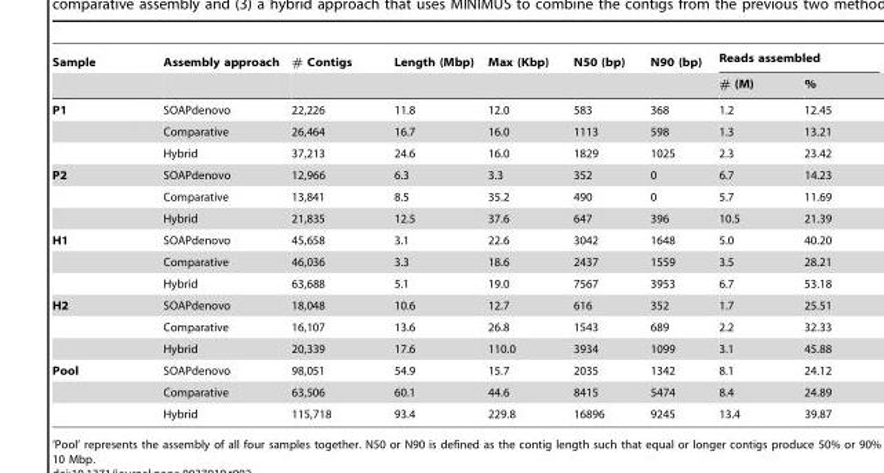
<table><thead><tr><td rowspan="2">Sample</td><td rowspan="2">Assembly approach</td><td rowspan="2"># Contigs</td><td rowspan="2">Length (Mbp)</td><td rowspan="2">Max (Kbp)</td><td rowspan="2">N50 (bp)</td><td rowspan="2">N90 (bp)</td><td colspan="2">Reads assembled</td></tr><tr><td># (M)</td><td>%</td></tr></thead><tbody><tr><td rowspan="3">P1</td><td>SOAPdenovo</td><td>22,226</td><td>11.8</td><td>12.0</td><td>583</td><td>368</td><td>1.2</td><td>12.45</td></tr><tr><td>Comparative</td><td>26,464</td><td>16.7</td><td>16.0</td><td>1113</td><td>598</td><td>1.3</td><td>13.21</td></tr><tr><td>Hybrid</td><td>37,213</td><td>24.6</td><td>16.0</td><td>1829</td><td>1025</td><td>2.3</td><td>23.42</td></tr><tr><td rowspan="3">P2</td><td>SOAPdenovo</td><td>12,966</td><td>6.3</td><td>3.3</td><td>352</td><td>0</td><td>6.7</td><td>14.23</td></tr><tr><td>Comparative</td><td>13,841</td><td>8.5</td><td>35.2</td><td>490</td><td>0</td><td>5.7</td><td>11.69</td></tr><tr><td>Hybrid</td><td>21,835</td><td>12.5</td><td>37.6</td><td>647</td><td>396</td><td>10.5</td><td>21.39</td></tr><tr><td rowspan="3">H1</td><td>SOAPdenovo</td><td>45,658</td><td>3.1</td><td>22.6</td><td>3042</td><td>1648</td><td>5.0</td><td>40.20</td></tr><tr><td>Comparative</td><td>46,036</td><td>3.3</td><td>18.6</td><td>2437</td><td>1559</td><td>3.5</td><td>28.21</td></tr><tr><td>Hybrid</td><td>63,688</td><td>5.1</td><td>19.0</td><td>7567</td><td>3953</td><td>6.7</td><td>53.18</td></tr><tr><td rowspan="3">H2</td><td>SOAPdenovo</td><td>18,048</td><td>10.6</td><td>12.7</td><td>616</td><td>352</td><td>1.7</td><td>25.51</td></tr><tr><td>Comparative</td><td>16,107</td><td>13.6</td><td>26.8</td><td>1543</td><td>689</td><td>2.2</td><td>32.33</td></tr><tr><td>Hybrid</td><td>20,339</td><td>17.6</td><td>110.0</td><td>3934</td><td>1099</td><td>3.1</td><td>45.88</td></tr><tr><td rowspan="3">Pool</td><td>SOAPdenovo</td><td>98,051</td><td>54.9</td><td>15.7</td><td>2035</td><td>1342</td><td>8.1</td><td>24.12</td></tr><tr><td>Comparative</td><td>63,506</td><td>60.1</td><td>44.6</td><td>8415</td><td>5474</td><td>8.4</td><td>24.89</td></tr><tr><td>Hybrid</td><td>115,718</td><td>93.4</td><td>229.8</td><td>16896</td><td>9245</td><td>13.4</td><td>39.87</td></tr></tbody></table>